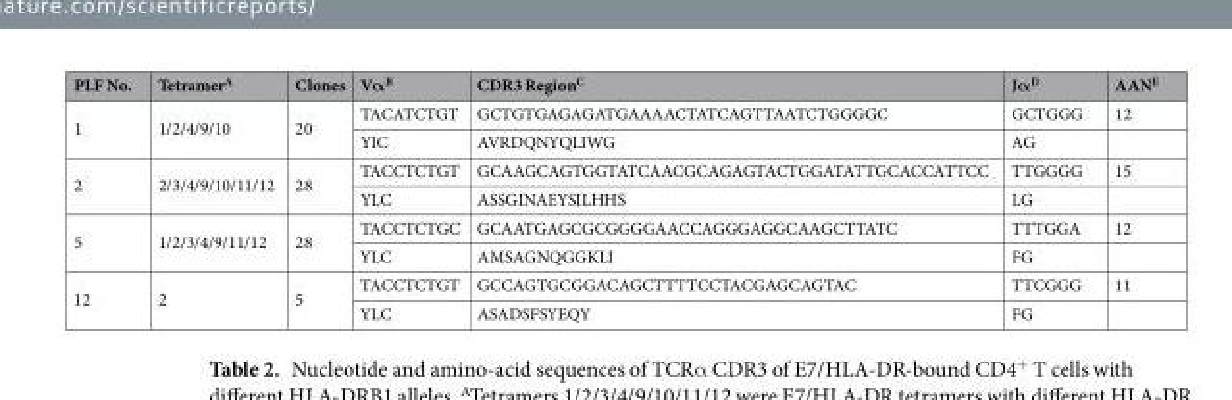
<table><thead><tr><td>PLF No.</td><td>Tetramer<sup>A</sup></td><td>Clones</td><td>Vα<sup>B</sup></td><td>CDR3 Region<sup>C</sup></td><td>Jα<sup>D</sup></td><td>AAN<sup>E</sup></td></tr></thead><tbody><tr><td rowspan="2">1</td><td rowspan="2">1/2/4/9/10</td><td rowspan="2">20</td><td>TACATCTGT</td><td>GCTGTGAGAGATGAAAACTATCAGTTAATCTGGGGC</td><td>GCTGGG</td><td>12</td></tr><tr><td>YIC</td><td>AVRDQNYQLIWG</td><td>AG</td><td></td></tr><tr><td rowspan="2">2</td><td rowspan="2">2/3/4/9/10/11/12</td><td rowspan="2">28</td><td>TACCTCTGT</td><td>GCAAGCAGTGGTATCAACGCAGAGTACTGGATATTGCACCATTCC</td><td>TTGGGG</td><td>15</td></tr><tr><td>YLC</td><td>ASSGINAEYSILHHS</td><td>LG</td><td></td></tr><tr><td rowspan="2">5</td><td rowspan="2">1/2/3/4/9/11/12</td><td rowspan="2">28</td><td>TACCTCTGC</td><td>GCAATGAGCGCGGGGAACCAGGGAGGCAAGCTTATC</td><td>TTTGGA</td><td>12</td></tr><tr><td>YLC</td><td>AMSAGNQGGKLI</td><td>FG</td><td></td></tr><tr><td rowspan="2">12</td><td rowspan="2">2</td><td rowspan="2">5</td><td>TACCTCTGT</td><td>GCCAGTGCGGACAGCTTTTCCTACGAGCAGTAC</td><td>TTCGGG</td><td>11</td></tr><tr><td>YLC</td><td>ASADSFSYEQY</td><td>FG</td><td></td></tr></tbody></table>